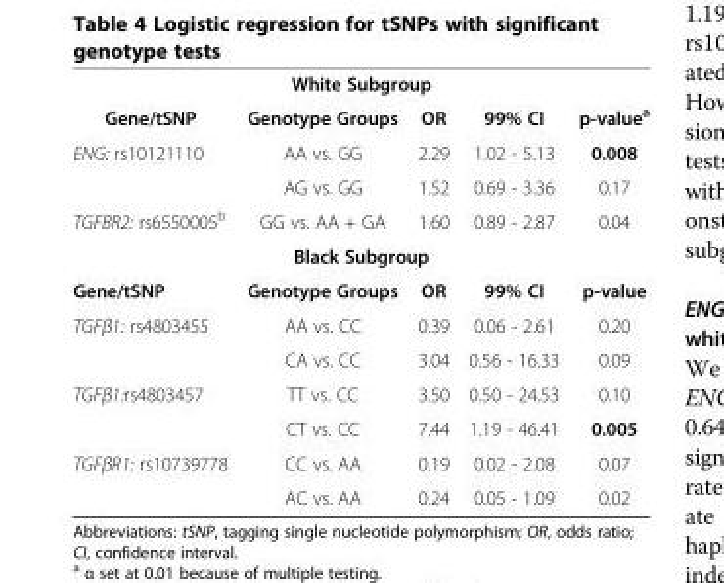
<table><tbody><tr><td colspan="5">White Subgroup</td></tr><tr><td>Gene/tSNP</td><td>Genotype Groups</td><td>OR</td><td>99% CI</td><td>p-value<sup>a</sup></td></tr><tr><td rowspan="2">ENG: rs10121110</td><td>AA vs. GG</td><td>2.29</td><td>1.02 - 5.13</td><td>0.008</td></tr><tr><td>AG vs. GG</td><td>1.52</td><td>0.69 - 3.36</td><td>0.17</td></tr><tr><td>TGFBR2: rs6550005<sup>b</sup></td><td>GG vs. AA + GA</td><td>1.60</td><td>0.89 - 2.87</td><td>0.04</td></tr><tr><td colspan="5">Black Subgroup</td></tr><tr><td>Gene/tSNP</td><td>Genotype Groups</td><td>OR</td><td>99% CI</td><td>p-value</td></tr><tr><td rowspan="2">TGFβ1: rs4803455</td><td>AA vs. CC</td><td>0.39</td><td>0.06 - 2.61</td><td>0.20</td></tr><tr><td>CA vs. CC</td><td>3.04</td><td>0.56 - 16.33</td><td>0.09</td></tr><tr><td rowspan="2">TGFβ1:rs4803457</td><td>TT vs. CC</td><td>3.50</td><td>0.50 - 24.53</td><td>0.10</td></tr><tr><td>CT vs. CC</td><td>7.44</td><td>1.19 - 46.41</td><td>0.005</td></tr><tr><td rowspan="2">TGFβR1: rs10739778</td><td>CC vs. AA</td><td>0.19</td><td>0.02 - 2.08</td><td>0.07</td></tr><tr><td>AC vs. AA</td><td>0.24</td><td>0.05 - 1.09</td><td>0.02</td></tr></tbody></table>